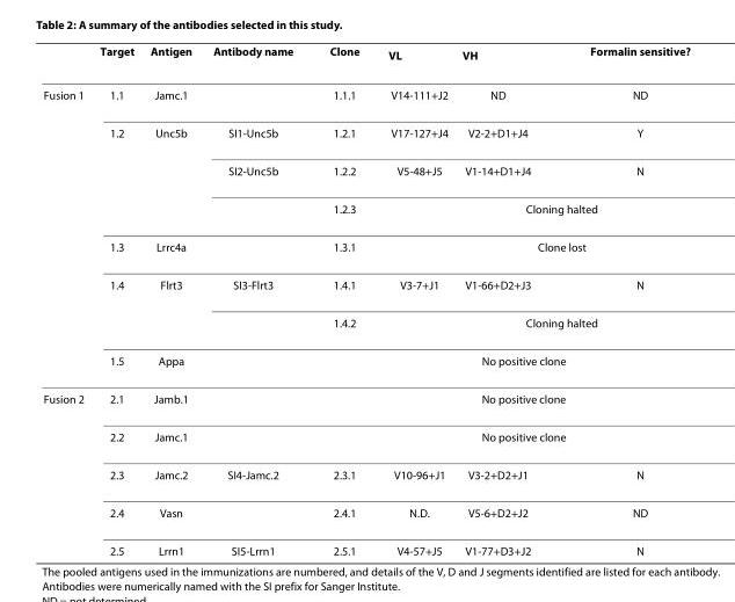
<table><thead><tr><td></td><td>Target</td><td>Antigen</td><td>Antibody name</td><td>Clone</td><td>V<sub>L</sub></td><td>V<sub>H</sub></td><td>Formalin sensitive?</td></tr></thead><tbody><tr><td rowspan="8">Fusion 1</td><td>1.1</td><td>Jamc.1</td><td></td><td>1.1.1</td><td>V14-111+J2</td><td>ND</td><td>ND</td></tr><tr><td>1.2</td><td>Unc5b</td><td>SI1-Unc5b</td><td>1.2.1</td><td>V17-127+J4</td><td>V2-2+D1+J4</td><td>Y</td></tr><tr><td></td><td></td><td>SI2-Unc5b</td><td>1.2.2</td><td>V5-48+J5</td><td>V1-14+D1+J4</td><td>N</td></tr><tr><td></td><td></td><td></td><td>1.2.3</td><td colspan="3">Cloning halted</td></tr><tr><td>1.3</td><td>Lrrc4a</td><td></td><td>1.3.1</td><td colspan="3">Clone lost</td></tr><tr><td>1.4</td><td>Flrt3</td><td>SI3-Flrt3</td><td>1.4.1</td><td>V3-7+J1</td><td>V1-66+D2+J3</td><td>N</td></tr><tr><td></td><td></td><td></td><td>1.4.2</td><td colspan="3">Cloning halted</td></tr><tr><td>1.5</td><td>Appa</td><td></td><td colspan="4">No positive clone</td></tr><tr><td rowspan="5">Fusion 2</td><td>2.1</td><td>Jamb.1</td><td></td><td colspan="4">No positive clone</td></tr><tr><td>2.2</td><td>Jamc.1</td><td></td><td colspan="4">No positive clone</td></tr><tr><td>2.3</td><td>Jamc.2</td><td>SI4-Jamc.2</td><td>2.3.1</td><td>V10-96+J1</td><td>V3-2+D2+J1</td><td>N</td></tr><tr><td>2.4</td><td>Vasn</td><td></td><td>2.4.1</td><td>N.D.</td><td>V5-6+D2+J2</td><td>ND</td></tr><tr><td>2.5</td><td>Lrrn1</td><td>SI5-Lrrn1</td><td>2.5.1</td><td>V4-57+J5</td><td>V1-77+D3+J2</td><td>N</td></tr></tbody></table>